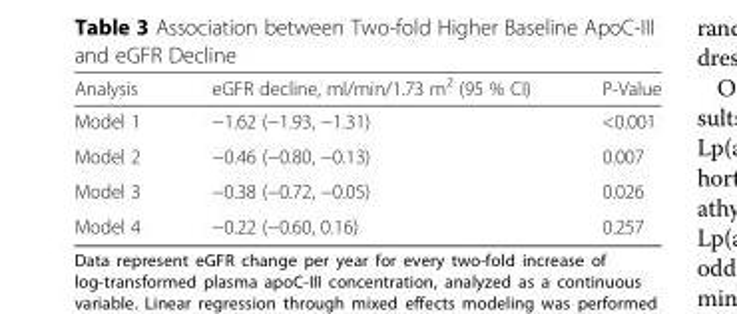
<table><thead><tr><td>Analysis</td><td>eGFR decline, ml/min/1.73 m<sup>2</sup> (95 % CI)</td><td>P-Value</td></tr></thead><tbody><tr><td>Model 1</td><td>−1.62 (−1.93, −1.31)</td><td>&lt;0.001</td></tr><tr><td>Model 2</td><td>−0.46 (−0.80, −0.13)</td><td>0.007</td></tr><tr><td>Model 3</td><td>−0.38 (−0.72, −0.05)</td><td>0.026</td></tr><tr><td>Model 4</td><td>−0.22 (−0.60, 0.16)</td><td>0.257</td></tr></tbody></table>